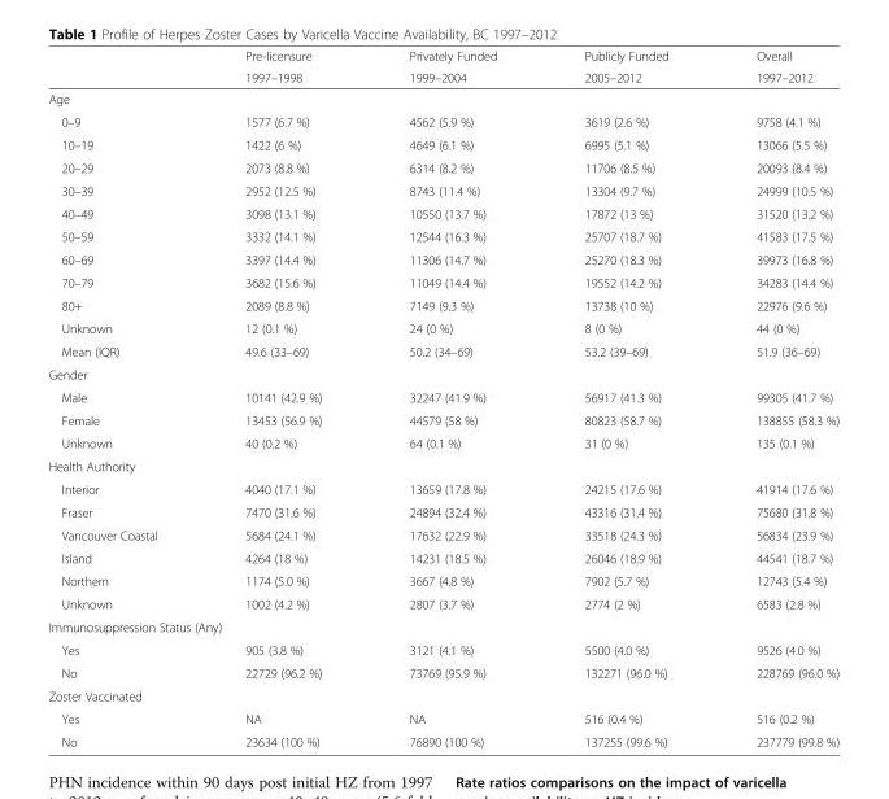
<table><thead><tr><td rowspan="2"></td><td rowspan="2">Pre-licensure 1997–1998</td><td rowspan="2">Privately Funded 1999–2004</td><td rowspan="2">Publicly Funded 2005–2012</td><td rowspan="2">Overall 1997–2012</td></tr><tr></tr></thead><tbody><tr><td colspan="5">Age</td></tr><tr><td>0–9</td><td>1577 (6.7 %)</td><td>4562 (5.9 %)</td><td>3619 (2.6 %)</td><td>9758 (4.1 %)</td></tr><tr><td>10–19</td><td>1422 (6 %)</td><td>4649 (6.1 %)</td><td>6995 (5.1 %)</td><td>13066 (5.5 %)</td></tr><tr><td>20–29</td><td>2073 (8.8 %)</td><td>6314 (8.2 %)</td><td>11706 (8.5 %)</td><td>20093 (8.4 %)</td></tr><tr><td>30–39</td><td>2952 (12.5 %)</td><td>8743 (11.4 %)</td><td>13304 (9.7 %)</td><td>24999 (10.5 %)</td></tr><tr><td>40–49</td><td>3098 (13.1 %)</td><td>10550 (13.7 %)</td><td>17872 (13 %)</td><td>31520 (13.2 %)</td></tr><tr><td>50–59</td><td>3332 (14.1 %)</td><td>12544 (16.3 %)</td><td>25707 (18.7 %)</td><td>41583 (17.5 %)</td></tr><tr><td>60–69</td><td>3397 (14.4 %)</td><td>11306 (14.7 %)</td><td>25270 (18.3 %)</td><td>39973 (16.8 %)</td></tr><tr><td>70–79</td><td>3682 (15.6 %)</td><td>11049 (14.4 %)</td><td>19552 (14.2 %)</td><td>34283 (14.4 %)</td></tr><tr><td>80+</td><td>2089 (8.8 %)</td><td>7149 (9.3 %)</td><td>13738 (10 %)</td><td>22976 (9.6 %)</td></tr><tr><td>Unknown</td><td>12 (0.1 %)</td><td>24 (0 %)</td><td>8 (0 %)</td><td>44 (0 %)</td></tr><tr><td>Mean (IQR)</td><td>49.6 (33–69)</td><td>50.2 (34–69)</td><td>53.2 (39–69)</td><td>51.9 (36–69)</td></tr><tr><td colspan="5">Gender</td></tr><tr><td>Male</td><td>10141 (42.9 %)</td><td>32247 (41.9 %)</td><td>56917 (41.3 %)</td><td>99305 (41.7 %)</td></tr><tr><td>Female</td><td>13453 (56.9 %)</td><td>44579 (58 %)</td><td>80823 (58.7 %)</td><td>138855 (58.3 %)</td></tr><tr><td>Unknown</td><td>40 (0.2 %)</td><td>64 (0.1 %)</td><td>31 (0 %)</td><td>135 (0.1 %)</td></tr><tr><td colspan="5">Health Authority</td></tr><tr><td>Interior</td><td>4040 (17.1 %)</td><td>13659 (17.8 %)</td><td>24215 (17.6 %)</td><td>41914 (17.6 %)</td></tr><tr><td>Fraser</td><td>7470 (31.6 %)</td><td>24894 (32.4 %)</td><td>43316 (31.4 %)</td><td>75680 (31.8 %)</td></tr><tr><td>Vancouver Coastal</td><td>5684 (24.1 %)</td><td>17632 (22.9 %)</td><td>33518 (24.3 %)</td><td>56834 (23.9 %)</td></tr><tr><td>Island</td><td>4264 (18 %)</td><td>14231 (18.5 %)</td><td>26046 (18.9 %)</td><td>44541 (18.7 %)</td></tr><tr><td>Northern</td><td>1174 (5.0 %)</td><td>3667 (4.8 %)</td><td>7902 (5.7 %)</td><td>12743 (5.4 %)</td></tr><tr><td>Unknown</td><td>1002 (4.2 %)</td><td>2807 (3.7 %)</td><td>2774 (2 %)</td><td>6583 (2.8 %)</td></tr><tr><td colspan="5">Immunosuppression Status (Any)</td></tr><tr><td>Yes</td><td>905 (3.8 %)</td><td>3121 (4.1 %)</td><td>5500 (4.0 %)</td><td>9526 (4.0 %)</td></tr><tr><td>No</td><td>22729 (96.2 %)</td><td>73769 (95.9 %)</td><td>132271 (96.0 %)</td><td>228769 (96.0 %)</td></tr><tr><td colspan="5">Zoster Vaccinated</td></tr><tr><td>Yes</td><td>NA</td><td>NA</td><td>516 (0.4 %)</td><td>516 (0.2 %)</td></tr><tr><td>No</td><td>23634 (100 %)</td><td>76890 (100 %)</td><td>137255 (99.6 %)</td><td>237779 (99.8 %)</td></tr></tbody></table>